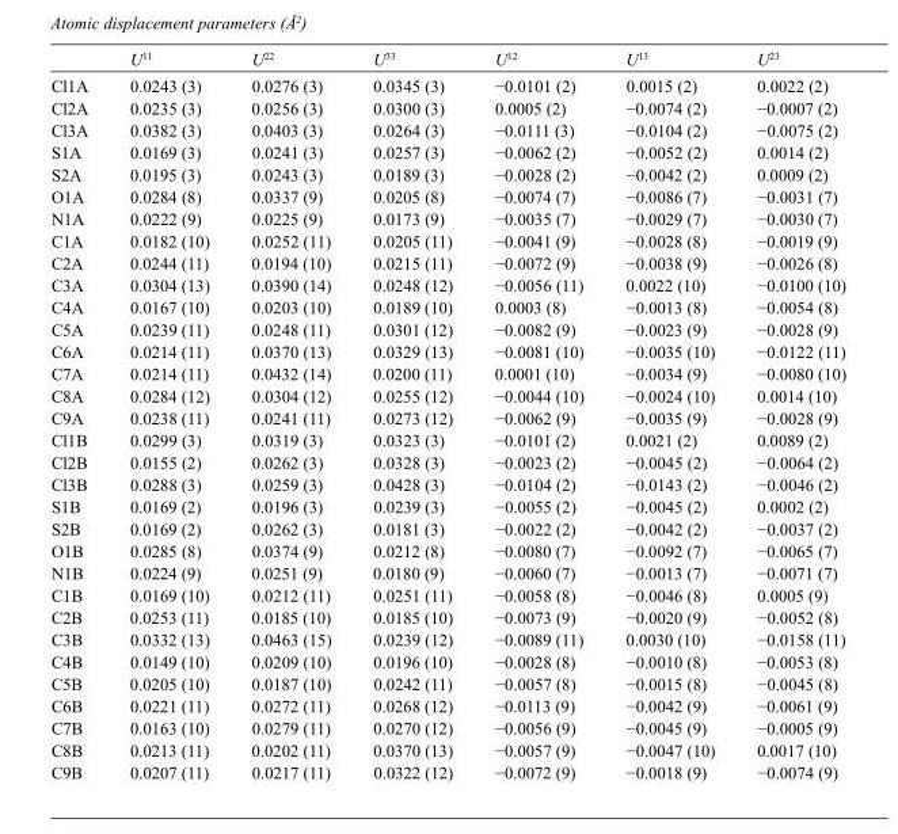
<table><thead><tr><td></td><td>U<sup>11</sup></td><td>U<sup>22</sup></td><td>U<sup>33</sup></td><td>U<sup>12</sup></td><td>U<sup>13</sup></td><td>U<sup>23</sup></td></tr></thead><tbody><tr><td>Cl1A</td><td>0.0243 (3)</td><td>0.0276 (3)</td><td>0.0345 (3)</td><td>−0.0101 (2)</td><td>0.0015 (2)</td><td>0.0022 (2)</td></tr><tr><td>Cl2A</td><td>0.0235 (3)</td><td>0.0256 (3)</td><td>0.0300 (3)</td><td>0.0005 (2)</td><td>−0.0074 (2)</td><td>−0.0007 (2)</td></tr><tr><td>Cl3A</td><td>0.0382 (3)</td><td>0.0403 (3)</td><td>0.0264 (3)</td><td>−0.0111 (3)</td><td>−0.0104 (2)</td><td>−0.0075 (2)</td></tr><tr><td>S1A</td><td>0.0169 (3)</td><td>0.0241 (3)</td><td>0.0257 (3)</td><td>−0.0062 (2)</td><td>−0.0052 (2)</td><td>0.0014 (2)</td></tr><tr><td>S2A</td><td>0.0195 (3)</td><td>0.0243 (3)</td><td>0.0189 (3)</td><td>−0.0028 (2)</td><td>−0.0042 (2)</td><td>0.0009 (2)</td></tr><tr><td>O1A</td><td>0.0284 (8)</td><td>0.0337 (9)</td><td>0.0205 (8)</td><td>−0.0074 (7)</td><td>−0.0086 (7)</td><td>−0.0031 (7)</td></tr><tr><td>N1A</td><td>0.0222 (9)</td><td>0.0225 (9)</td><td>0.0173 (9)</td><td>−0.0035 (7)</td><td>−0.0029 (7)</td><td>−0.0030 (7)</td></tr><tr><td>C1A</td><td>0.0182 (10)</td><td>0.0252 (11)</td><td>0.0205 (11)</td><td>−0.0041 (9)</td><td>−0.0028 (8)</td><td>−0.0019 (9)</td></tr><tr><td>C2A</td><td>0.0244 (11)</td><td>0.0194 (10)</td><td>0.0215 (11)</td><td>−0.0072 (9)</td><td>−0.0038 (9)</td><td>−0.0026 (8)</td></tr><tr><td>C3A</td><td>0.0304 (13)</td><td>0.0390 (14)</td><td>0.0248 (12)</td><td>−0.0056 (11)</td><td>0.0022 (10)</td><td>−0.0100 (10)</td></tr><tr><td>C4A</td><td>0.0167 (10)</td><td>0.0203 (10)</td><td>0.0189 (10)</td><td>0.0003 (8)</td><td>−0.0013 (8)</td><td>−0.0054 (8)</td></tr><tr><td>C5A</td><td>0.0239 (11)</td><td>0.0248 (11)</td><td>0.0301 (12)</td><td>−0.0082 (9)</td><td>−0.0023 (9)</td><td>−0.0028 (9)</td></tr><tr><td>C6A</td><td>0.0214 (11)</td><td>0.0370 (13)</td><td>0.0329 (13)</td><td>−0.0081 (10)</td><td>−0.0035 (10)</td><td>−0.0122 (11)</td></tr><tr><td>C7A</td><td>0.0214 (11)</td><td>0.0432 (14)</td><td>0.0200 (11)</td><td>0.0001 (10)</td><td>−0.0034 (9)</td><td>−0.0080 (10)</td></tr><tr><td>C8A</td><td>0.0284 (12)</td><td>0.0304 (12)</td><td>0.0255 (12)</td><td>−0.0044 (10)</td><td>−0.0024 (10)</td><td>0.0014 (10)</td></tr><tr><td>C9A</td><td>0.0238 (11)</td><td>0.0241 (11)</td><td>0.0273 (12)</td><td>−0.0062 (9)</td><td>−0.0035 (9)</td><td>−0.0028 (9)</td></tr><tr><td>Cl1B</td><td>0.0299 (3)</td><td>0.0319 (3)</td><td>0.0323 (3)</td><td>−0.0101 (2)</td><td>0.0021 (2)</td><td>0.0089 (2)</td></tr><tr><td>Cl2B</td><td>0.0155 (2)</td><td>0.0262 (3)</td><td>0.0328 (3)</td><td>−0.0023 (2)</td><td>−0.0045 (2)</td><td>−0.0064 (2)</td></tr><tr><td>Cl3B</td><td>0.0288 (3)</td><td>0.0259 (3)</td><td>0.0428 (3)</td><td>−0.0104 (2)</td><td>−0.0143 (2)</td><td>−0.0046 (2)</td></tr><tr><td>S1B</td><td>0.0169 (2)</td><td>0.0196 (3)</td><td>0.0239 (3)</td><td>−0.0055 (2)</td><td>−0.0045 (2)</td><td>0.0002 (2)</td></tr><tr><td>S2B</td><td>0.0169 (2)</td><td>0.0262 (3)</td><td>0.0181 (3)</td><td>−0.0022 (2)</td><td>−0.0042 (2)</td><td>−0.0037 (2)</td></tr><tr><td>O1B</td><td>0.0285 (8)</td><td>0.0374 (9)</td><td>0.0212 (8)</td><td>−0.0080 (7)</td><td>−0.0092 (7)</td><td>−0.0065 (7)</td></tr><tr><td>N1B</td><td>0.0224 (9)</td><td>0.0251 (9)</td><td>0.0180 (9)</td><td>−0.0060 (7)</td><td>−0.0013 (7)</td><td>−0.0071 (7)</td></tr><tr><td>C1B</td><td>0.0169 (10)</td><td>0.0212 (11)</td><td>0.0251 (11)</td><td>−0.0058 (8)</td><td>−0.0046 (8)</td><td>0.0005 (9)</td></tr><tr><td>C2B</td><td>0.0253 (11)</td><td>0.0185 (10)</td><td>0.0185 (10)</td><td>−0.0073 (9)</td><td>−0.0020 (9)</td><td>−0.0052 (8)</td></tr><tr><td>C3B</td><td>0.0332 (13)</td><td>0.0463 (15)</td><td>0.0239 (12)</td><td>−0.0089 (11)</td><td>0.0030 (10)</td><td>−0.0158 (11)</td></tr><tr><td>C4B</td><td>0.0149 (10)</td><td>0.0209 (10)</td><td>0.0196 (10)</td><td>−0.0028 (8)</td><td>−0.0010 (8)</td><td>−0.0053 (8)</td></tr><tr><td>C5B</td><td>0.0205 (10)</td><td>0.0187 (10)</td><td>0.0242 (11)</td><td>−0.0057 (8)</td><td>−0.0015 (8)</td><td>−0.0045 (8)</td></tr><tr><td>C6B</td><td>0.0221 (11)</td><td>0.0272 (11)</td><td>0.0268 (12)</td><td>−0.0113 (9)</td><td>−0.0042 (9)</td><td>−0.0061 (9)</td></tr><tr><td>C7B</td><td>0.0163 (10)</td><td>0.0279 (11)</td><td>0.0270 (12)</td><td>−0.0056 (9)</td><td>−0.0045 (9)</td><td>−0.0005 (9)</td></tr><tr><td>C8B</td><td>0.0213 (11)</td><td>0.0202 (11)</td><td>0.0370 (13)</td><td>−0.0057 (9)</td><td>−0.0047 (10)</td><td>0.0017 (10)</td></tr><tr><td>C9B</td><td>0.0207 (11)</td><td>0.0217 (11)</td><td>0.0322 (12)</td><td>−0.0072 (9)</td><td>−0.0018 (9)</td><td>−0.0074 (9)</td></tr></tbody></table>